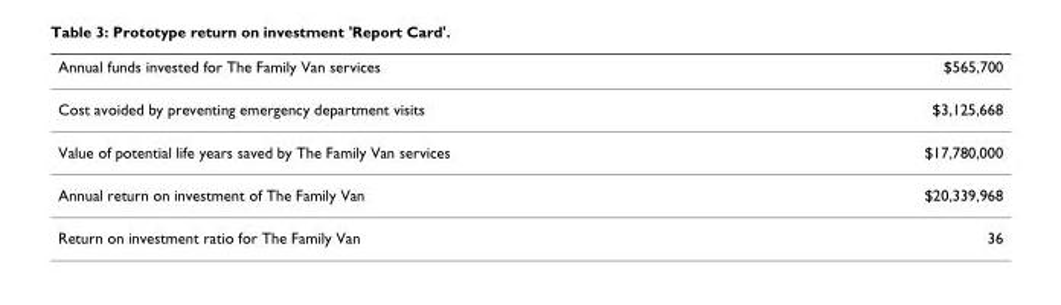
<table><thead><tr><td>Annual funds invested for The Family Van services</td><td>$565,700</td></tr></thead><tbody><tr><td>Cost avoided by preventing emergency department visits</td><td>$3,125,668</td></tr><tr><td>Value of potential life years saved by The Family Van services</td><td>$17,780,000</td></tr><tr><td>Annual return on investment of The Family Van</td><td>$20,339,968</td></tr><tr><td>Return on investment ratio for The Family Van</td><td>36</td></tr></tbody></table>